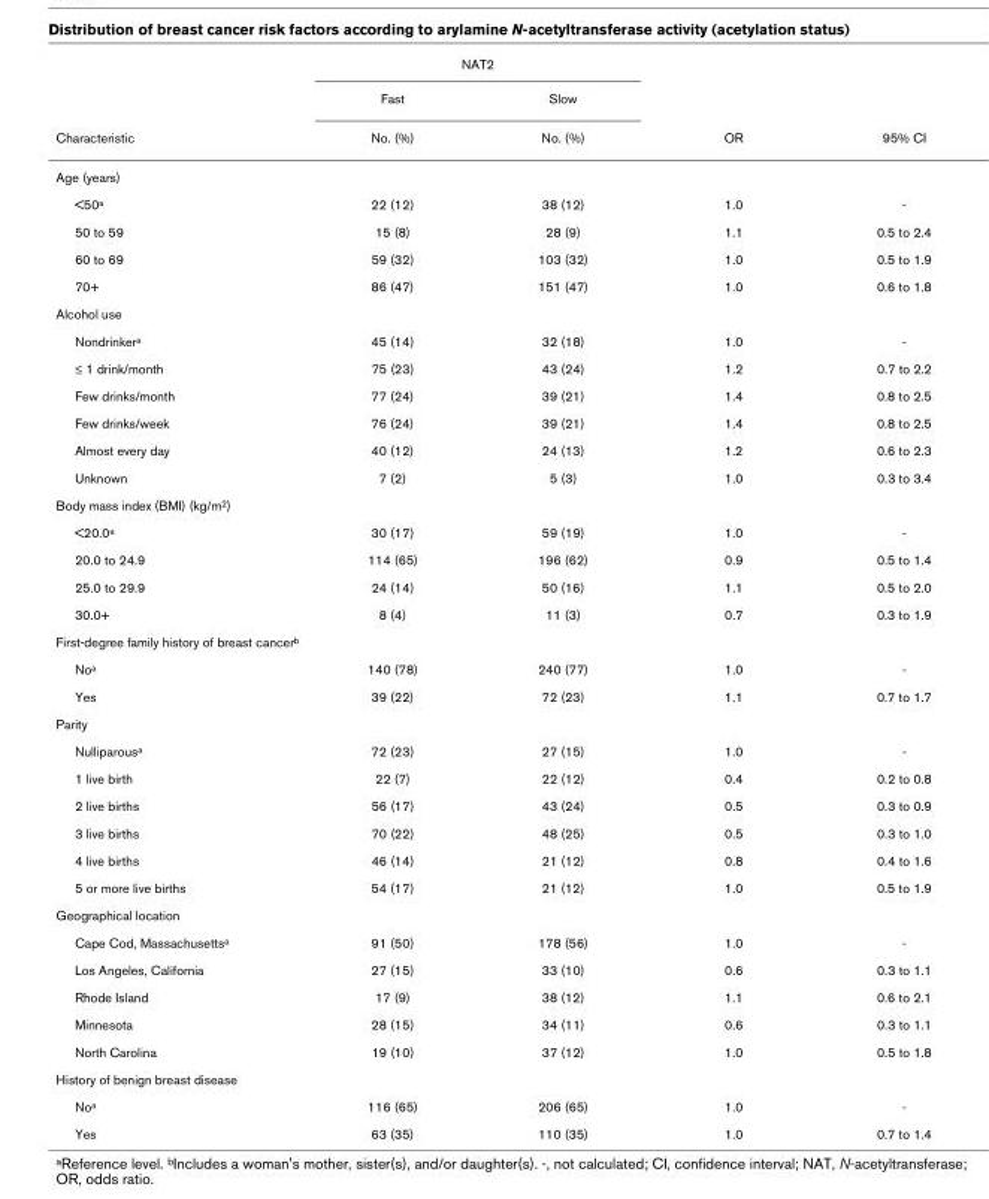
<table><thead><tr><td rowspan="3">Characteristic</td><td colspan="2">NAT2</td><td rowspan="3">OR</td><td rowspan="3">95% CI</td></tr><tr><td rowspan="2">Fast No. (%)</td><td rowspan="2">Slow No. (%)</td></tr><tr></tr></thead><tbody><tr><td colspan="5">Age (years)</td></tr><tr><td>&lt;50a</td><td>22 (12)</td><td>38 (12)</td><td>1.0</td><td>-</td></tr><tr><td>50 to 59</td><td>15 (8)</td><td>28 (9)</td><td>1.1</td><td>0.5 to 2.4</td></tr><tr><td>60 to 69</td><td>59 (32)</td><td>103 (32)</td><td>1.0</td><td>0.5 to 1.9</td></tr><tr><td>70+</td><td>86 (47)</td><td>151 (47)</td><td>1.0</td><td>0.6 to 1.8</td></tr><tr><td colspan="5">Alcohol use</td></tr><tr><td>Nondrinkera</td><td>45 (14)</td><td>32 (18)</td><td>1.0</td><td>-</td></tr><tr><td>≤ 1 drink/month</td><td>75 (23)</td><td>43 (24)</td><td>1.2</td><td>0.7 to 2.2</td></tr><tr><td>Few drinks/month</td><td>77 (24)</td><td>39 (21)</td><td>1.4</td><td>0.8 to 2.5</td></tr><tr><td>Few drinks/week</td><td>76 (24)</td><td>39 (21)</td><td>1.4</td><td>0.8 to 2.5</td></tr><tr><td>Almost every day</td><td>40 (12)</td><td>24 (13)</td><td>1.2</td><td>0.6 to 2.3</td></tr><tr><td>Unknown</td><td>7 (2)</td><td>5 (3)</td><td>1.0</td><td>0.3 to 3.4</td></tr><tr><td colspan="5">Body mass index (BMI) (kg/m2)</td></tr><tr><td>&lt;20.0a</td><td>30 (17)</td><td>59 (19)</td><td>1.0</td><td>-</td></tr><tr><td>20.0 to 24.9</td><td>114 (65)</td><td>196 (62)</td><td>0.9</td><td>0.5 to 1.4</td></tr><tr><td>25.0 to 29.9</td><td>24 (14)</td><td>50 (16)</td><td>1.1</td><td>0.5 to 2.0</td></tr><tr><td>30.0+</td><td>8 (4)</td><td>11 (3)</td><td>0.7</td><td>0.3 to 1.9</td></tr><tr><td colspan="5">First-degree family history of breast cancerb</td></tr><tr><td>Noa</td><td>140 (78)</td><td>240 (77)</td><td>1.0</td><td>-</td></tr><tr><td>Yes</td><td>39 (22)</td><td>72 (23)</td><td>1.1</td><td>0.7 to 1.7</td></tr><tr><td colspan="5">Parity</td></tr><tr><td>Nulliparousa</td><td>72 (23)</td><td>27 (15)</td><td>1.0</td><td>-</td></tr><tr><td>1 live birth</td><td>22 (7)</td><td>22 (12)</td><td>0.4</td><td>0.2 to 0.8</td></tr><tr><td>2 live births</td><td>56 (17)</td><td>43 (24)</td><td>0.5</td><td>0.3 to 0.9</td></tr><tr><td>3 live births</td><td>70 (22)</td><td>48 (25)</td><td>0.5</td><td>0.3 to 1.0</td></tr><tr><td>4 live births</td><td>46 (14)</td><td>21 (12)</td><td>0.8</td><td>0.4 to 1.6</td></tr><tr><td>5 or more live births</td><td>54 (17)</td><td>21 (12)</td><td>1.0</td><td>0.5 to 1.9</td></tr><tr><td colspan="5">Geographical location</td></tr><tr><td>Cape Cod, Massachusettsa</td><td>91 (50)</td><td>178 (56)</td><td>1.0</td><td>-</td></tr><tr><td>Los Angeles, California</td><td>27 (15)</td><td>33 (10)</td><td>0.6</td><td>0.3 to 1.1</td></tr><tr><td>Rhode Island</td><td>17 (9)</td><td>38 (12)</td><td>1.1</td><td>0.6 to 2.1</td></tr><tr><td>Minnesota</td><td>28 (15)</td><td>34 (11)</td><td>0.6</td><td>0.3 to 1.1</td></tr><tr><td>North Carolina</td><td>19 (10)</td><td>37 (12)</td><td>1.0</td><td>0.5 to 1.8</td></tr><tr><td colspan="5">History of benign breast disease</td></tr><tr><td>Noa</td><td>116 (65)</td><td>206 (65)</td><td>1.0</td><td>-</td></tr><tr><td>Yes</td><td>63 (35)</td><td>110 (35)</td><td>1.0</td><td>0.7 to 1.4</td></tr></tbody></table>